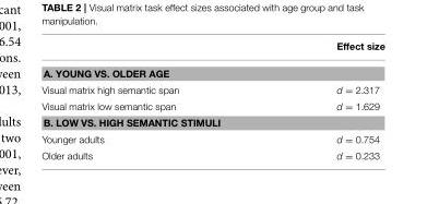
<table><thead><tr><td></td><td>Effect size</td></tr></thead><tbody><tr><td colspan="2">A. YOUNG VS. OLDER AGE</td></tr><tr><td>Visual matrix high semantic span</td><td>d = 2.317</td></tr><tr><td>Visual matrix low semantic span</td><td>d = 1.629</td></tr><tr><td colspan="2">B. LOW VS. HIGH SEMANTIC STIMULI</td></tr><tr><td>Younger adults</td><td>d = 0.754</td></tr><tr><td>Older adults</td><td>d = 0.233</td></tr></tbody></table>